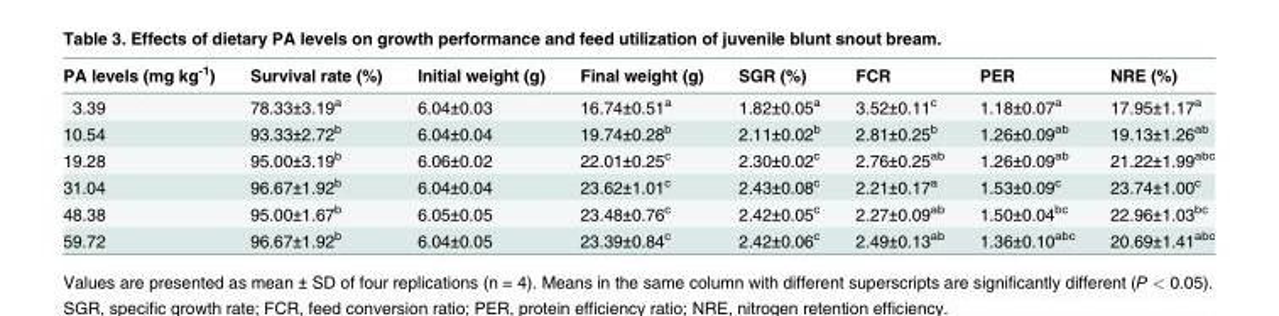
<table><thead><tr><td>PA levels (mg kg<sup>-1</sup>)</td><td>Survival rate (%)</td><td>Initial weight (g)</td><td>Final weight (g)</td><td>SGR (%)</td><td>FCR</td><td>PER</td><td>NRE (%)</td></tr></thead><tbody><tr><td>3.39</td><td>78.33±3.19<sup>a</sup></td><td>6.04±0.03</td><td>16.74±0.51<sup>a</sup></td><td>1.82±0.05<sup>a</sup></td><td>3.52±0.11<sup>c</sup></td><td>1.18±0.07<sup>a</sup></td><td>17.95±1.17<sup>a</sup></td></tr><tr><td>10.54</td><td>93.33±2.72<sup>b</sup></td><td>6.04±0.04</td><td>19.74±0.28<sup>b</sup></td><td>2.11±0.02<sup>b</sup></td><td>2.81±0.25<sup>b</sup></td><td>1.26±0.09<sup>ab</sup></td><td>19.13±1.26<sup>ab</sup></td></tr><tr><td>19.28</td><td>95.00±3.19<sup>b</sup></td><td>6.06±0.02</td><td>22.01±0.25<sup>c</sup></td><td>2.30±0.02<sup>c</sup></td><td>2.76±0.25<sup>ab</sup></td><td>1.26±0.09<sup>ab</sup></td><td>21.22±1.99<sup>abc</sup></td></tr><tr><td>31.04</td><td>96.67±1.92<sup>b</sup></td><td>6.04±0.04</td><td>23.62±1.01<sup>c</sup></td><td>2.43±0.08<sup>c</sup></td><td>2.21±0.17<sup>a</sup></td><td>1.53±0.09<sup>c</sup></td><td>23.74±1.00<sup>c</sup></td></tr><tr><td>48.38</td><td>95.00±1.67<sup>b</sup></td><td>6.05±0.05</td><td>23.48±0.76<sup>c</sup></td><td>2.42±0.05<sup>c</sup></td><td>2.27±0.09<sup>ab</sup></td><td>1.50±0.04<sup>bc</sup></td><td>22.96±1.03<sup>bc</sup></td></tr><tr><td>59.72</td><td>96.67±1.92<sup>b</sup></td><td>6.04±0.05</td><td>23.39±0.84<sup>c</sup></td><td>2.42±0.06<sup>c</sup></td><td>2.49±0.13<sup>ab</sup></td><td>1.36±0.10<sup>abc</sup></td><td>20.69±1.41<sup>abc</sup></td></tr></tbody></table>